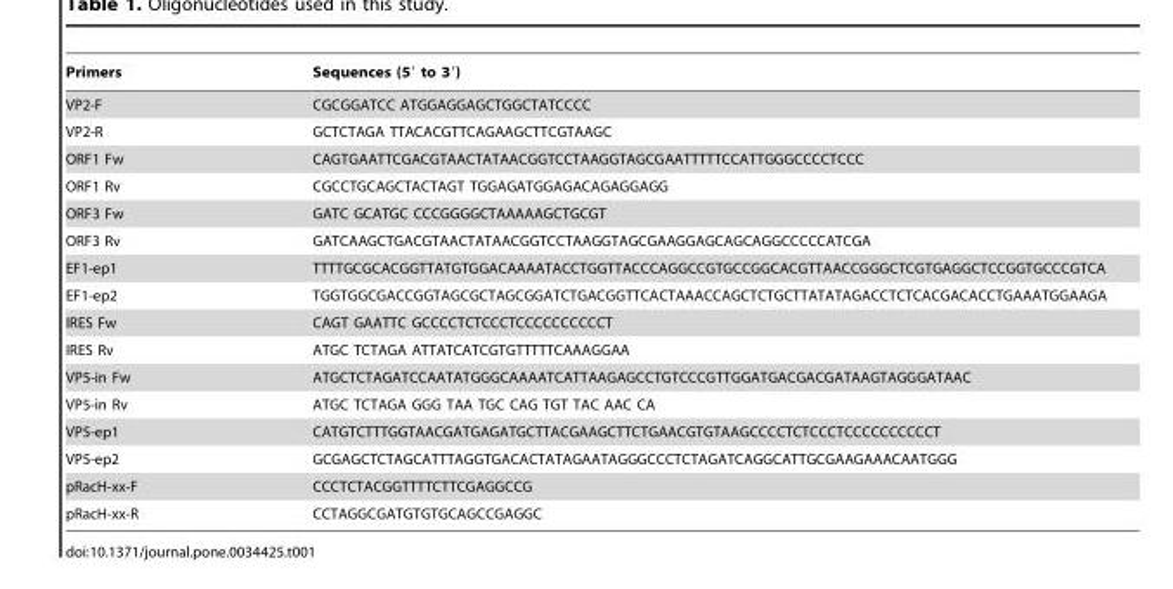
<table><thead><tr><td>Primers</td><td>Sequences (5′ to 3′)</td></tr></thead><tbody><tr><td>VP2-F</td><td>CGCGGATCC ATGGAGGAGCTGGCTATCCCC</td></tr><tr><td>VP2-R</td><td>GCTCTAGA TTACACGTTCAGAAGCTTCGTAAGC</td></tr><tr><td>ORF1 Fw</td><td>CAGTGAATTCGACGTAACTATAACGGTCCTAAGGTAGCGAATTTTTCCATTGGGCCCCTCCC</td></tr><tr><td>ORF1 Rv</td><td>CGCCTGCAGCTACTAGT TGGAGATGGAGACAGAGGAGG</td></tr><tr><td>ORF3 Fw</td><td>GATC GCATGC CCCGGGGCTAAAAAGCTGCGT</td></tr><tr><td>ORF3 Rv</td><td>GATCAAGCTGACGTAACTATAACGGTCCTAAGGTAGCGAAGGAGCAGCAGGCCCCCATCGA</td></tr><tr><td>EF1-ep1</td><td>TTTTGCGCACGGTTATGTGGACAAAATACCTGGTTACCCAGGCCGTGCCGGCACGTTAACCGGGCTCGTGAGGCTCCGGTGCCCGTCA</td></tr><tr><td>EF1-ep2</td><td>TGGTGGCGACCGGTAGCGCTAGCGGATCTGACGGTTCACTAAACCAGCTCTGCTTATATAGACCTCTCACGACACCTGAAATGGAAGA</td></tr><tr><td>IRES Fw</td><td>CAGT GAATTC GCCCCTCTCCCTCCCCCCCCCCT</td></tr><tr><td>IRES Rv</td><td>ATGC TCTAGA ATTATCATCGTGTTTTTCAAAGGAA</td></tr><tr><td>VP5-in Fw</td><td>ATGCTCTAGATCCAATATGGGCAAAATCATTAAGAGCCTGTCCCGTTGGATGACGACGATAAGTAGGGATAAC</td></tr><tr><td>VP5-in Rv</td><td>ATGC TCTAGA GGG TAA TGC CAG TGT TAC AAC CA</td></tr><tr><td>VP5-ep1</td><td>CATGTCTTTGGTAACGATGAGATGCTTACGAAGCTTCTGAACGTGTAAGCCCCTCTCCCTCCCCCCCCCCT</td></tr><tr><td>VP5-ep2</td><td>GCGAGCTCTAGCATTTAGGTGACACTATAGAATAGGGCCCTCTAGATCAGGCATTGCGAAGAAACAATGGG</td></tr><tr><td>pRacH-xx-F</td><td>CCCTCTACGGTTTTCTTCGAGGCCG</td></tr><tr><td>pRacH-xx-R</td><td>CCTAGGCGATGTGTGCAGCCGAGGC</td></tr></tbody></table>